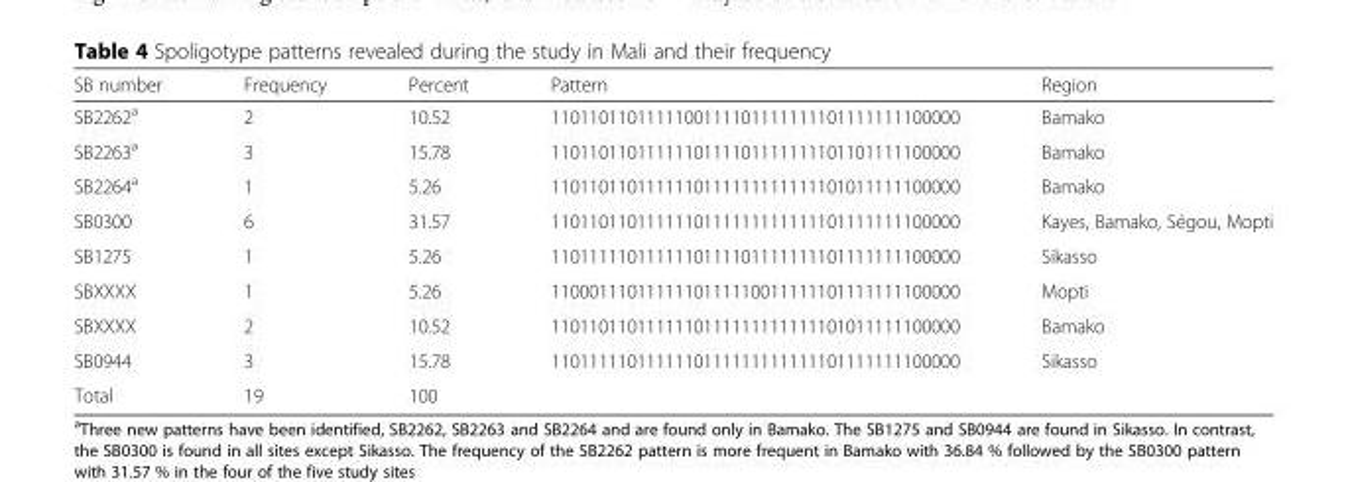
<table><thead><tr><td>SB number</td><td>Frequency</td><td>Percent</td><td>Pattern</td><td>Region</td></tr></thead><tbody><tr><td>SB2262<sup>a</sup></td><td>2</td><td>10.52</td><td>1101101101111100111101111111101111111100000</td><td>Bamako</td></tr><tr><td>SB2263<sup>a</sup></td><td>3</td><td>15.78</td><td>1101101101111110111101111111101101111100000</td><td>Bamako</td></tr><tr><td>SB2264<sup>a</sup></td><td>1</td><td>5.26</td><td>1101101101111110111111111111101011111100000</td><td>Bamako</td></tr><tr><td>SB0300</td><td>6</td><td>31.57</td><td>1101101101111110111111111111101111111100000</td><td>Kayes, Bamako, Ségou, Mopti</td></tr><tr><td>SB1275</td><td>1</td><td>5.26</td><td>1101111101111110111101111111101111111100000</td><td>Sikasso</td></tr><tr><td>SBXXXX</td><td>1</td><td>5.26</td><td>1100011101111110111110011111101111111100000</td><td>Mopti</td></tr><tr><td>SBXXXX</td><td>2</td><td>10.52</td><td>1101101101111110111111111111101011111100000</td><td>Bamako</td></tr><tr><td>SB0944</td><td>3</td><td>15.78</td><td>1101111101111110111111111111101111111100000</td><td>Sikasso</td></tr><tr><td>Total</td><td>19</td><td>100</td><td colspan="2"></td></tr></tbody></table>